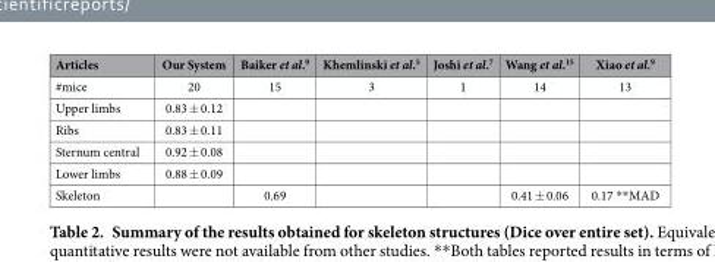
<table><thead><tr><td>Articles</td><td>Our System</td><td>Baiker et al.<sup>9</sup></td><td>Khemlinski et al.<sup>5</sup></td><td>Joshi et al.<sup>7</sup></td><td>Wang et al.<sup>15</sup></td><td>Xiao et al.<sup>9</sup></td></tr></thead><tbody><tr><td>#mice</td><td>20</td><td>15</td><td>3</td><td>1</td><td>14</td><td>13</td></tr><tr><td>Upper limbs</td><td>0.83 ± 0.12</td><td></td><td></td><td></td><td></td><td></td></tr><tr><td>Ribs</td><td>0.83 ± 0.11</td><td></td><td></td><td></td><td></td><td></td></tr><tr><td>Sternum central</td><td>0.92 ± 0.08</td><td></td><td></td><td></td><td></td><td></td></tr><tr><td>Lower limbs</td><td>0.88 ± 0.09</td><td></td><td></td><td></td><td></td><td></td></tr><tr><td>Skeleton</td><td></td><td>0.69</td><td></td><td></td><td>0.41 ± 0.06</td><td>0.17 **MAD</td></tr></tbody></table>